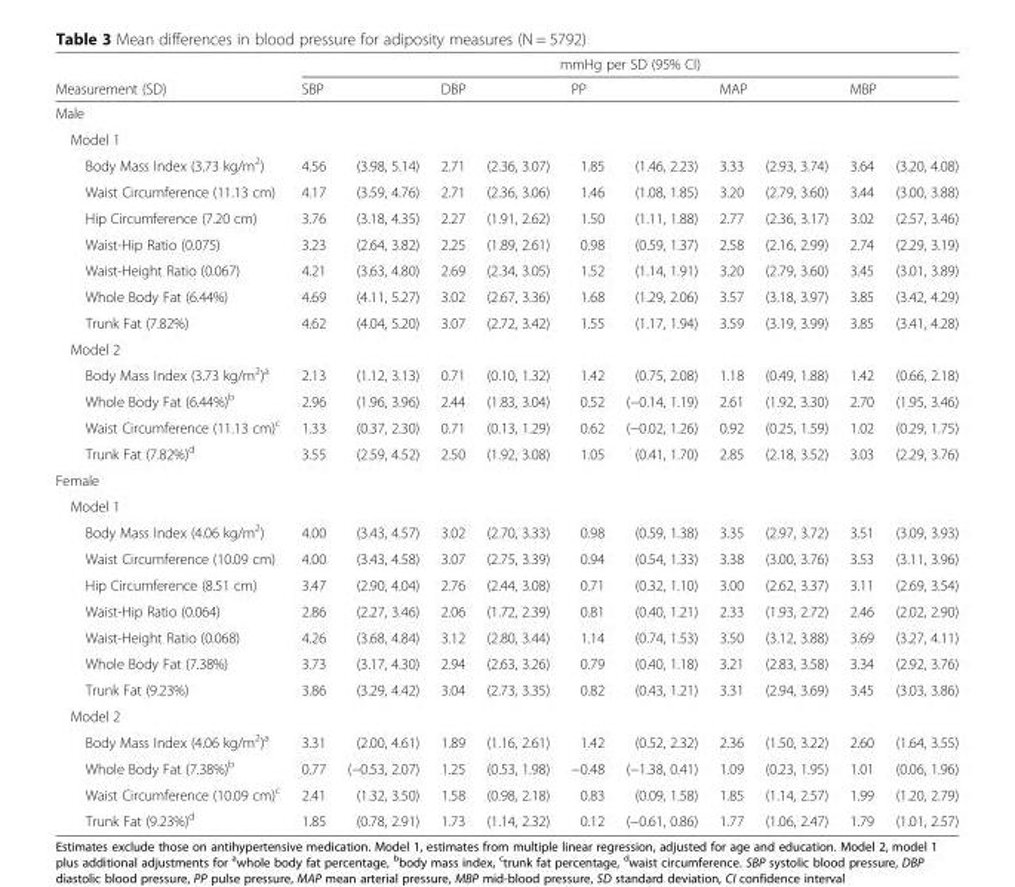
<table><thead><tr><td rowspan="2">Measurement (SD)</td><td colspan="10">mmHg per SD (95% CI)</td></tr><tr><td colspan="2">SBP</td><td colspan="2">DBP</td><td colspan="2">PP</td><td colspan="2">MAP</td><td colspan="2">MBP</td></tr><tr><td rowspan="2" colspan="11">Male Model 1</td></tr><tr></tr><tr><td>Body Mass Index (3.73 kg/m<sup>2</sup>)</td><td>4.56</td><td>(3.98, 5.14)</td><td>2.71</td><td>(2.36, 3.07)</td><td>1.85</td><td>(1.46, 2.23)</td><td>3.33</td><td>(2.93, 3.74)</td><td>3.64</td><td>(3.20, 4.08)</td></tr></thead><tbody><tr><td>Waist Circumference (11.13 cm)</td><td>4.17</td><td>(3.59, 4.76)</td><td>2.71</td><td>(2.36, 3.06)</td><td>1.46</td><td>(1.08, 1.85)</td><td>3.20</td><td>(2.79, 3.60)</td><td>3.44</td><td>(3.00, 3.88)</td></tr><tr><td>Hip Circumference (7.20 cm)</td><td>3.76</td><td>(3.18, 4.35)</td><td>2.27</td><td>(1.91, 2.62)</td><td>1.50</td><td>(1.11, 1.88)</td><td>2.77</td><td>(2.36, 3.17)</td><td>3.02</td><td>(2.57, 3.46)</td></tr><tr><td>Waist-Hip Ratio (0.075)</td><td>3.23</td><td>(2.64, 3.82)</td><td>2.25</td><td>(1.89, 2.61)</td><td>0.98</td><td>(0.59, 1.37)</td><td>2.58</td><td>(2.16, 2.99)</td><td>2.74</td><td>(2.29, 3.19)</td></tr><tr><td>Waist-Height Ratio (0.067)</td><td>4.21</td><td>(3.63, 4.80)</td><td>2.69</td><td>(2.34, 3.05)</td><td>1.52</td><td>(1.14, 1.91)</td><td>3.20</td><td>(2.79, 3.60)</td><td>3.45</td><td>(3.01, 3.89)</td></tr><tr><td>Whole Body Fat (6.44%)</td><td>4.69</td><td>(4.11, 5.27)</td><td>3.02</td><td>(2.67, 3.36)</td><td>1.68</td><td>(1.29, 2.06)</td><td>3.57</td><td>(3.18, 3.97)</td><td>3.85</td><td>(3.42, 4.29)</td></tr><tr><td>Trunk Fat (7.82%)</td><td>4.62</td><td>(4.04, 5.20)</td><td>3.07</td><td>(2.72, 3.42)</td><td>1.55</td><td>(1.17, 1.94)</td><td>3.59</td><td>(3.19, 3.99)</td><td>3.85</td><td>(3.41, 4.28)</td></tr><tr><td colspan="11">Model 2</td></tr><tr><td>Body Mass Index (3.73 kg/m<sup>2</sup>)<sup>a</sup></td><td>2.13</td><td>(1.12, 3.13)</td><td>0.71</td><td>(0.10, 1.32)</td><td>1.42</td><td>(0.75, 2.08)</td><td>1.18</td><td>(0.49, 1.88)</td><td>1.42</td><td>(0.66, 2.18)</td></tr><tr><td>Whole Body Fat (6.44%)<sup>b</sup></td><td>2.96</td><td>(1.96, 3.96)</td><td>2.44</td><td>(1.83, 3.04)</td><td>0.52</td><td>(−0.14, 1.19)</td><td>2.61</td><td>(1.92, 3.30)</td><td>2.70</td><td>(1.95, 3.46)</td></tr><tr><td>Waist Circumference (11.13 cm)<sup>c</sup></td><td>1.33</td><td>(0.37, 2.30)</td><td>0.71</td><td>(0.13, 1.29)</td><td>0.62</td><td>(−0.02, 1.26)</td><td>0.92</td><td>(0.25, 1.59)</td><td>1.02</td><td>(0.29, 1.75)</td></tr><tr><td>Trunk Fat (7.82%)<sup>d</sup></td><td>3.55</td><td>(2.59, 4.52)</td><td>2.50</td><td>(1.92, 3.08)</td><td>1.05</td><td>(0.41, 1.70)</td><td>2.85</td><td>(2.18, 3.52)</td><td>3.03</td><td>(2.29, 3.76)</td></tr><tr><td colspan="11">Female</td></tr><tr><td colspan="11">Model 1</td></tr><tr><td>Body Mass Index (4.06 kg/m<sup>2</sup>)</td><td>4.00</td><td>(3.43, 4.57)</td><td>3.02</td><td>(2.70, 3.33)</td><td>0.98</td><td>(0.59, 1.38)</td><td>3.35</td><td>(2.97, 3.72)</td><td>3.51</td><td>(3.09, 3.93)</td></tr><tr><td>Waist Circumference (10.09 cm)</td><td>4.00</td><td>(3.43, 4.58)</td><td>3.07</td><td>(2.75, 3.39)</td><td>0.94</td><td>(0.54, 1.33)</td><td>3.38</td><td>(3.00, 3.76)</td><td>3.53</td><td>(3.11, 3.96)</td></tr><tr><td>Hip Circumference (8.51 cm)</td><td>3.47</td><td>(2.90, 4.04)</td><td>2.76</td><td>(2.44, 3.08)</td><td>0.71</td><td>(0.32, 1.10)</td><td>3.00</td><td>(2.62, 3.37)</td><td>3.11</td><td>(2.69, 3.54)</td></tr><tr><td>Waist-Hip Ratio (0.064)</td><td>2.86</td><td>(2.27, 3.46)</td><td>2.06</td><td>(1.72, 2.39)</td><td>0.81</td><td>(0.40, 1.21)</td><td>2.33</td><td>(1.93, 2.72)</td><td>2.46</td><td>(2.02, 2.90)</td></tr><tr><td>Waist-Height Ratio (0.068)</td><td>4.26</td><td>(3.68, 4.84)</td><td>3.12</td><td>(2.80, 3.44)</td><td>1.14</td><td>(0.74, 1.53)</td><td>3.50</td><td>(3.12, 3.88)</td><td>3.69</td><td>(3.27, 4.11)</td></tr><tr><td>Whole Body Fat (7.38%)</td><td>3.73</td><td>(3.17, 4.30)</td><td>2.94</td><td>(2.63, 3.26)</td><td>0.79</td><td>(0.40, 1.18)</td><td>3.21</td><td>(2.83, 3.58)</td><td>3.34</td><td>(2.92, 3.76)</td></tr><tr><td>Trunk Fat (9.23%)</td><td>3.86</td><td>(3.29, 4.42)</td><td>3.04</td><td>(2.73, 3.35)</td><td>0.82</td><td>(0.43, 1.21)</td><td>3.31</td><td>(2.94, 3.69)</td><td>3.45</td><td>(3.03, 3.86)</td></tr><tr><td colspan="11">Model 2</td></tr><tr><td>Body Mass Index (4.06 kg/m<sup>2</sup>)<sup>a</sup></td><td>3.31</td><td>(2.00, 4.61)</td><td>1.89</td><td>(1.16, 2.61)</td><td>1.42</td><td>(0.52, 2.32)</td><td>2.36</td><td>(1.50, 3.22)</td><td>2.60</td><td>(1.64, 3.55)</td></tr><tr><td>Whole Body Fat (7.38%)<sup>b</sup></td><td>0.77</td><td>(−0.53, 2.07)</td><td>1.25</td><td>(0.53, 1.98)</td><td>−0.48</td><td>(−1.38, 0.41)</td><td>1.09</td><td>(0.23, 1.95)</td><td>1.01</td><td>(0.06, 1.96)</td></tr><tr><td>Waist Circumference (10.09 cm)<sup>c</sup></td><td>2.41</td><td>(1.32, 3.50)</td><td>1.58</td><td>(0.98, 2.18)</td><td>0.83</td><td>(0.09, 1.58)</td><td>1.85</td><td>(1.14, 2.57)</td><td>1.99</td><td>(1.20, 2.79)</td></tr><tr><td>Trunk Fat (9.23%)<sup>d</sup></td><td>1.85</td><td>(0.78, 2.91)</td><td>1.73</td><td>(1.14, 2.32)</td><td>0.12</td><td>(−0.61, 0.86)</td><td>1.77</td><td>(1.06, 2.47)</td><td>1.79</td><td>(1.01, 2.57)</td></tr></tbody></table>